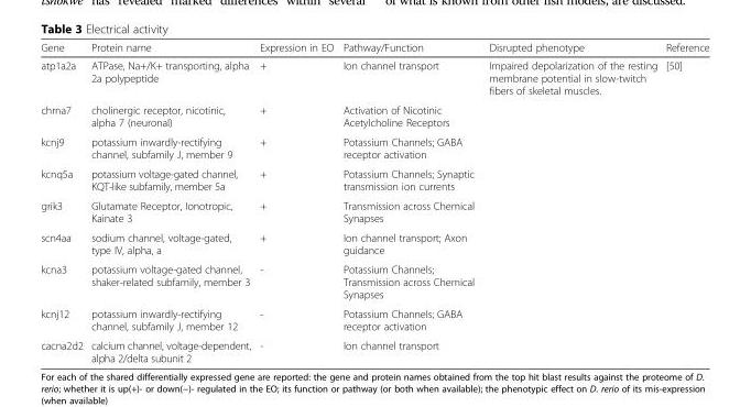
<table><thead><tr><td>Gene</td><td>Protein name</td><td>Expression in EO</td><td>Pathway/Function</td><td>Disrupted phenotype</td><td>Reference</td></tr></thead><tbody><tr><td>atp1a2a</td><td>ATPase, Na+/K+ transporting, alpha 2a polypeptide</td><td>+</td><td>Ion channel transport</td><td>Impaired depolarization of the resting membrane potential in slow-twitch fibers of skeletal muscles.</td><td>[50]</td></tr><tr><td>chrna7</td><td>cholinergic receptor, nicotinic, alpha 7 (neuronal)</td><td>+</td><td>Activation of Nicotinic Acetylcholine Receptors</td><td></td><td></td></tr><tr><td>kcnj9</td><td>potassium inwardly-rectifying channel, subfamily J, member 9</td><td>+</td><td>Potassium Channels; GABA receptor activation</td><td></td><td></td></tr><tr><td>kcnq5a</td><td>potassium voltage-gated channel, KQT-like subfamily, member 5a</td><td>+</td><td>Potassium Channels; Synaptic transmission ion currents</td><td></td><td></td></tr><tr><td>grik3</td><td>Glutamate Receptor, Ionotropic, Kainate 3</td><td>+</td><td>Transmission across Chemical Synapses</td><td></td><td></td></tr><tr><td>scn4aa</td><td>sodium channel, voltage-gated, type IV, alpha, a</td><td>+</td><td>Ion channel transport; Axon guidance</td><td></td><td></td></tr><tr><td>kcna3</td><td>potassium voltage-gated channel, shaker-related subfamily, member 3</td><td>-</td><td>Potassium Channels; Transmission across Chemical Synapses</td><td></td><td></td></tr><tr><td>kcnj12</td><td>potassium inwardly-rectifying channel, subfamily J, member 12</td><td>-</td><td>Potassium Channels; GABA receptor activation</td><td></td><td></td></tr><tr><td>cacna2d2</td><td>calcium channel, voltage-dependent, alpha 2/delta subunit 2</td><td>-</td><td>Ion channel transport</td><td></td><td></td></tr></tbody></table>